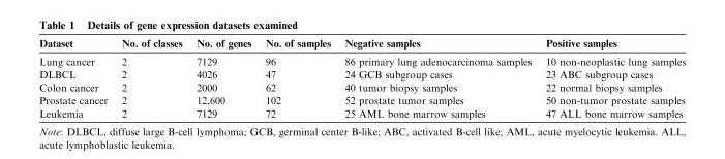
<table><thead><tr><td>Dataset</td><td>No. of classes</td><td>No. of genes</td><td>No. of samples</td><td>Negative samples</td><td>Positive samples</td></tr></thead><tbody><tr><td>Lung cancer</td><td>2</td><td>7129</td><td>96</td><td>86 primary lung adenocarcinoma samples</td><td>10 non-neoplastic lung samples</td></tr><tr><td>DLBCL</td><td>2</td><td>4026</td><td>47</td><td>24 GCB subgroup cases</td><td>23 ABC subgroup cases</td></tr><tr><td>Colon cancer</td><td>2</td><td>2000</td><td>62</td><td>40 tumor biopsy samples</td><td>22 normal biopsy samples</td></tr><tr><td>Prostate cancer</td><td>2</td><td>12,600</td><td>102</td><td>52 prostate tumor samples</td><td>50 non-tumor prostate samples</td></tr><tr><td>Leukemia</td><td>2</td><td>7129</td><td>72</td><td>25 AML bone marrow samples</td><td>47 ALL bone marrow samples</td></tr></tbody></table>